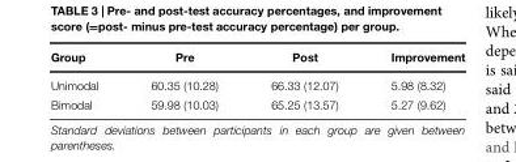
<table><thead><tr><td>Group</td><td>Pre</td><td>Post</td><td>Improvement</td></tr></thead><tbody><tr><td>Unimodal</td><td>60.35 (10.28)</td><td>66.33 (12.07)</td><td>5.98 (8.32)</td></tr><tr><td>Bimodal</td><td>59.98 (10.03)</td><td>65.25 (13.57)</td><td>5.27 (9.62)</td></tr></tbody></table>